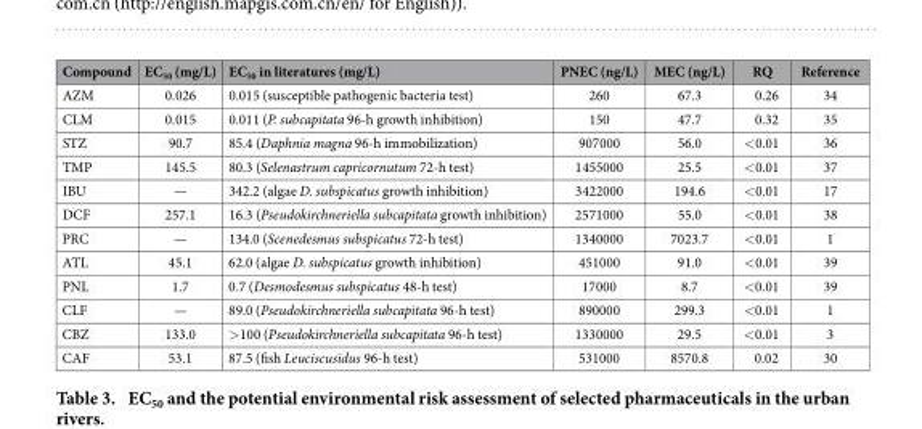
<table><thead><tr><td>Compound</td><td>EC<sub>50</sub> (mg/L)</td><td>EC<sub>50</sub> in literatures (mg/L)</td><td>PNEC (ng/L)</td><td>MEC (ng/L)</td><td>RQ</td><td>Reference</td></tr></thead><tbody><tr><td>AZM</td><td>0.026</td><td>0.015 (susceptible pathogenic bacteria test)</td><td>260</td><td>67.3</td><td>0.26</td><td>34</td></tr><tr><td>CLM</td><td>0.015</td><td>0.011 (P. subcapitata 96-h growth inhibition)</td><td>150</td><td>47.7</td><td>0.32</td><td>35</td></tr><tr><td>STZ</td><td>90.7</td><td>85.4 (Daphnia magna 96-h immobilization)</td><td>907000</td><td>56.0</td><td>&lt; 0.01</td><td>36</td></tr><tr><td>TMP</td><td>145.5</td><td>80.3 (Selenastrum capricornutum 72-h test)</td><td>1455000</td><td>25.5</td><td>&lt; 0.01</td><td>37</td></tr><tr><td>IBU</td><td>—</td><td>342.2 (algae D. subspicatus growth inhibition)</td><td>3422000</td><td>194.6</td><td>&lt; 0.01</td><td>17</td></tr><tr><td>DCF</td><td>257.1</td><td>16.3 (Pseudokirchneriella subcapitata growth inhibition)</td><td>2571000</td><td>55.0</td><td>&lt; 0.01</td><td>38</td></tr><tr><td>PRC</td><td>—</td><td>134.0 (Scenedesmus subspicatus 72-h test)</td><td>1340000</td><td>7023.7</td><td>&lt; 0.01</td><td>1</td></tr><tr><td>ATL</td><td>45.1</td><td>62.0 (algae D. subspicatus growth inhibition)</td><td>451000</td><td>91.0</td><td>&lt; 0.01</td><td>39</td></tr><tr><td>PNL</td><td>1.7</td><td>0.7 (Desmodesmus subspicatus 48-h test)</td><td>17000</td><td>8.7</td><td>&lt; 0.01</td><td>39</td></tr><tr><td>CLF</td><td>—</td><td>89.0 (Pseudokirchneriella subcapitata 96-h test)</td><td>890000</td><td>299.3</td><td>&lt; 0.01</td><td>1</td></tr><tr><td>CBZ</td><td>133.0</td><td>&gt; 100 (Pseudokirchneriella subcapitata 96-h test)</td><td>1330000</td><td>29.5</td><td>&lt; 0.01</td><td>3</td></tr><tr><td>CAF</td><td>53.1</td><td>87.5 (fish Leuciscusidus 96-h test)</td><td>531000</td><td>8570.8</td><td>0.02</td><td>30</td></tr></tbody></table>